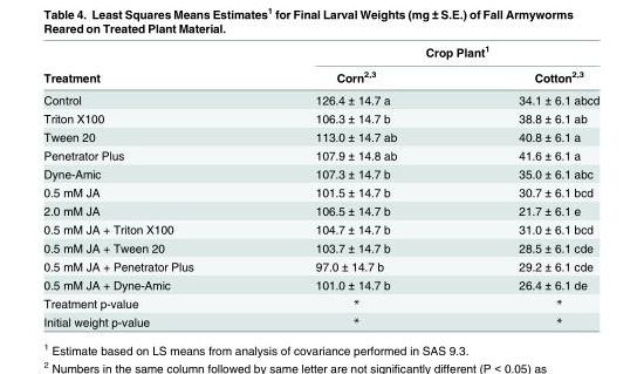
<table><thead><tr><td rowspan="2">Treatment</td><td colspan="2">Crop Plant<sup>1</sup></td></tr><tr><td>Corn<sup>2,3</sup></td><td>Cotton<sup>2,3</sup></td></tr></thead><tbody><tr><td>Control</td><td>126.4 ± 14.7 a</td><td>34.1 ± 6.1 abcd</td></tr><tr><td>Triton X100</td><td>106.3 ± 14.7 b</td><td>38.8 ± 6.1 ab</td></tr><tr><td>Tween 20</td><td>113.0 ± 14.7 ab</td><td>40.8 ± 6.1 a</td></tr><tr><td>Penetrator Plus</td><td>107.9 ± 14.8 ab</td><td>41.6 ± 6.1 a</td></tr><tr><td>Dyne-Amic</td><td>107.3 ± 14.7 b</td><td>35.0 ± 6.1 abc</td></tr><tr><td>0.5 mM JA</td><td>101.5 ± 14.7 b</td><td>30.7 ± 6.1 bcd</td></tr><tr><td>2.0 mM JA</td><td>106.5 ± 14.7 b</td><td>21.7 ± 6.1 e</td></tr><tr><td>0.5 mM JA + Triton X100</td><td>104.7 ± 14.7 b</td><td>31.0 ± 6.1 bcd</td></tr><tr><td>0.5 mM JA + Tween 20</td><td>103.7 ± 14.7 b</td><td>28.5 ± 6.1 cde</td></tr><tr><td>0.5 mM JA + Penetrator Plus</td><td>97.0 ± 14.7 b</td><td>29.2 ± 6.1 cde</td></tr><tr><td>0.5 mM JA + Dyne-Amic</td><td>101.0 ± 14.7 b</td><td>26.4 ± 6.1 de</td></tr><tr><td>Treatment p-value</td><td>*</td><td>*</td></tr><tr><td>Initial weight p-value</td><td>*</td><td>*</td></tr></tbody></table>